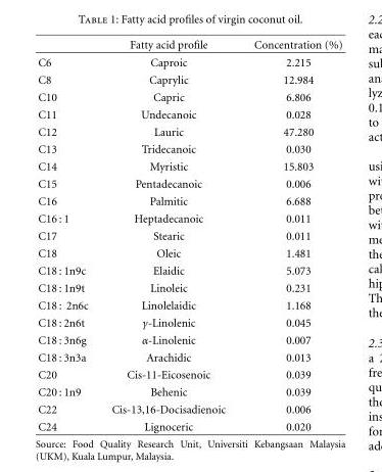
<table><thead><tr><td></td><td>Fatty acid profile</td><td>Concentration (%)</td></tr></thead><tbody><tr><td>C6</td><td>Caproic</td><td>2.215</td></tr><tr><td>C8</td><td>Caprylic</td><td>12.984</td></tr><tr><td>C10</td><td>Capric</td><td>6.806</td></tr><tr><td>C11</td><td>Undecanoic</td><td>0.028</td></tr><tr><td>C12</td><td>Lauric</td><td>47.280</td></tr><tr><td>C13</td><td>Tridecanoic</td><td>0.030</td></tr><tr><td>C14</td><td>Myristic</td><td>15.803</td></tr><tr><td>C15</td><td>Pentadecanoic</td><td>0.006</td></tr><tr><td>C16</td><td>Palmitic</td><td>6.688</td></tr><tr><td>C16 : 1</td><td>Heptadecanoic</td><td>0.011</td></tr><tr><td>C17</td><td>Stearic</td><td>0.011</td></tr><tr><td>C18</td><td>Oleic</td><td>1.481</td></tr><tr><td>C18 : 1n9c</td><td>Elaidic</td><td>5.073</td></tr><tr><td>C18 : 1n9t</td><td>Linoleic</td><td>0.231</td></tr><tr><td>C18 : 2n6c</td><td>Linolelaidic</td><td>1.168</td></tr><tr><td>C18 : 2n6t</td><td>γ-Linolenic</td><td>0.045</td></tr><tr><td>C18 : 3n6g</td><td>α-Linolenic</td><td>0.007</td></tr><tr><td>C18 : 3n3a</td><td>Arachidic</td><td>0.013</td></tr><tr><td>C20</td><td>Cis-11-Eicosenoic</td><td>0.039</td></tr><tr><td>C20 : 1n9</td><td>Behenic</td><td>0.039</td></tr><tr><td>C22</td><td>Cis-13,16-Docisadienoic</td><td>0.006</td></tr><tr><td>C24</td><td>Lignoceric</td><td>0.020</td></tr></tbody></table>